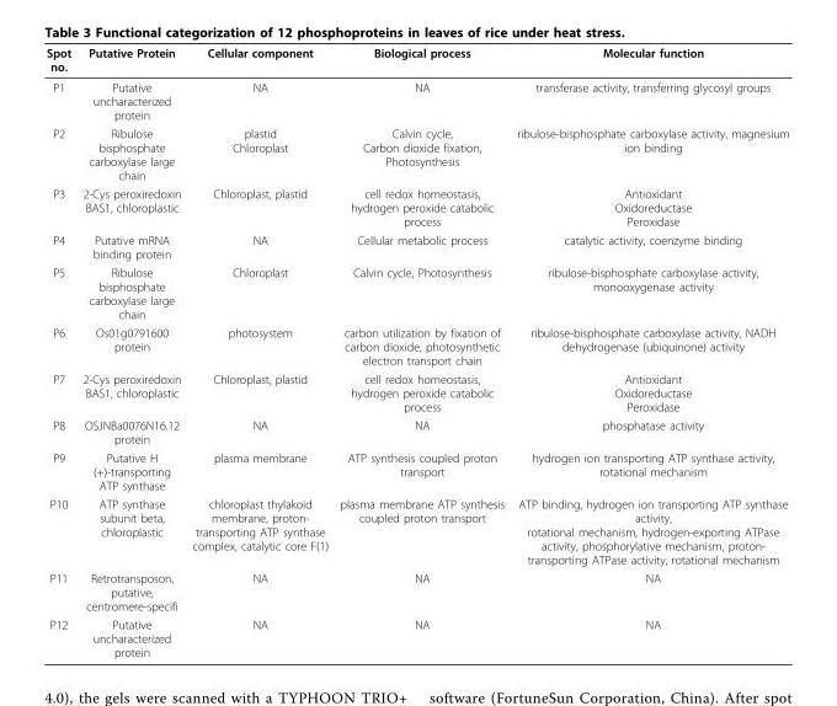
<table><thead><tr><td>Spot no.</td><td>Putative Protein</td><td>Cellular component</td><td>Biological process</td><td>Molecular function</td></tr></thead><tbody><tr><td>P1</td><td>Putative uncharacterized protein</td><td>NA</td><td>NA</td><td>transferase activity, transferring glycosyl groups</td></tr><tr><td>P2</td><td>Ribulose bisphosphate carboxylase large chain</td><td>plastid Chloroplast</td><td>Calvin cycle, Carbon dioxide fixation, Photosynthesis</td><td>ribulose-bisphosphate carboxylase activity, magnesium ion binding</td></tr><tr><td>P3</td><td>2-Cys peroxiredoxin BAS1, chloroplastic</td><td>Chloroplast, plastid</td><td>cell redox homeostasis, hydrogen peroxide catabolic process</td><td>Antioxidant Oxidoreductase Peroxidase</td></tr><tr><td>P4</td><td>Putative mRNA binding protein</td><td>NA</td><td>Cellular metabolic process</td><td>catalytic activity, coenzyme binding</td></tr><tr><td>P5</td><td>Ribulose bisphosphate carboxylase large chain</td><td>Chloroplast</td><td>Calvin cycle, Photosynthesis</td><td>ribulose-bisphosphate carboxylase activity, monooxygenase activity</td></tr><tr><td>P6</td><td>Os01g0791600 protein</td><td>photosystem</td><td>carbon utilization by fixation of carbon dioxide, photosynthetic electron transport chain</td><td>ribulose-bisphosphate carboxylase activity, NADH dehydrogenase (ubiquinone) activity</td></tr><tr><td>P7</td><td>2-Cys peroxiredoxin BAS1, chloroplastic</td><td>Chloroplast, plastid</td><td>cell redox homeostasis, hydrogen peroxide catabolic process</td><td>Antioxidant Oxidoreductase Peroxidase</td></tr><tr><td>P8</td><td>OSJNBa0076N16.12 protein</td><td>NA</td><td>NA</td><td>phosphatase activity</td></tr><tr><td>P9</td><td>Putative H (+)-transporting ATP synthase</td><td>plasma membrane</td><td>ATP synthesis coupled proton transport</td><td>hydrogen ion transporting ATP synthase activity, rotational mechanism</td></tr><tr><td>P10</td><td>ATP synthase subunit beta, chloroplastic</td><td>chloroplast thylakoid membrane, proton- transporting ATP synthase complex, catalytic core F(1)</td><td>plasma membrane ATP synthesis coupled proton transport</td><td>ATP binding, hydrogen ion transporting ATP synthase activity, rotational mechanism, hydrogen-exporting ATPase activity, phosphorylative mechanism, proton- transporting ATPase activity, rotational mechanism</td></tr><tr><td>P11</td><td>Retrotransposon, putative, centromere-specifi</td><td>NA</td><td>NA</td><td>NA</td></tr><tr><td>P12</td><td>Putative uncharacterized protein</td><td>NA</td><td>NA</td><td>NA</td></tr></tbody></table>